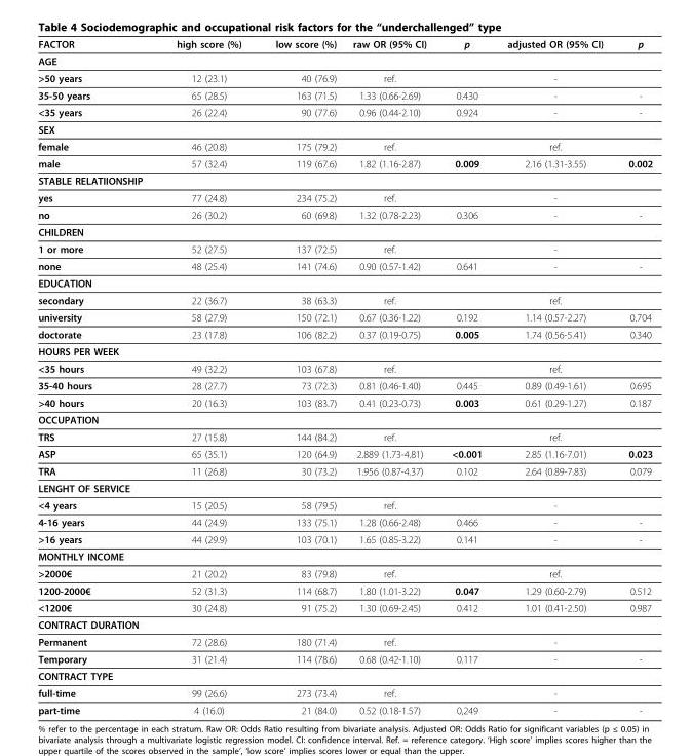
<table><thead><tr><td>FACTOR</td><td>high score (%)</td><td>low score (%)</td><td>raw OR (95% CI)</td><td>p</td><td>adjusted OR (95% CI)</td><td>p</td></tr></thead><tbody><tr><td colspan="7">AGE</td></tr><tr><td>&gt;50 years</td><td>12 (23.1)</td><td>40 (76.9)</td><td>ref.</td><td></td><td>-</td><td></td></tr><tr><td>35-50 years</td><td>65 (28.5)</td><td>163 (71.5)</td><td>1.33 (0.66-2.69)</td><td>0.430</td><td>-</td><td>-</td></tr><tr><td>&lt;35 years</td><td>26 (22.4)</td><td>90 (77.6)</td><td>0.96 (0.44-2.10)</td><td>0.924</td><td>-</td><td>-</td></tr><tr><td colspan="7">SEX</td></tr><tr><td>female</td><td>46 (20.8)</td><td>175 (79.2)</td><td>ref.</td><td></td><td>ref.</td><td></td></tr><tr><td>male</td><td>57 (32.4)</td><td>119 (67.6)</td><td>1.82 (1.16-2.87)</td><td>0.009</td><td>2.16 (1.31-3.55)</td><td>0.002</td></tr><tr><td colspan="7">STABLE RELATIIONSHIP</td></tr><tr><td>yes</td><td>77 (24.8)</td><td>234 (75.2)</td><td>ref.</td><td></td><td>-</td><td></td></tr><tr><td>no</td><td>26 (30.2)</td><td>60 (69.8)</td><td>1.32 (0.78-2.23)</td><td>0.306</td><td>-</td><td>-</td></tr><tr><td colspan="7">CHILDREN</td></tr><tr><td>1 or more</td><td>52 (27.5)</td><td>137 (72.5)</td><td>ref.</td><td></td><td>-</td><td></td></tr><tr><td>none</td><td>48 (25.4)</td><td>141 (74.6)</td><td>0.90 (0.57-1.42)</td><td>0.641</td><td>-</td><td>-</td></tr><tr><td colspan="7">EDUCATION</td></tr><tr><td>secondary</td><td>22 (36.7)</td><td>38 (63.3)</td><td>ref.</td><td></td><td>ref.</td><td></td></tr><tr><td>university</td><td>58 (27.9)</td><td>150 (72.1)</td><td>0.67 (0.36-1.22)</td><td>0.192</td><td>1.14 (0.57-2.27)</td><td>0.704</td></tr><tr><td>doctorate</td><td>23 (17.8)</td><td>106 (82.2)</td><td>0.37 (0.19-0.75)</td><td>0.005</td><td>1.74 (0.56-5.41)</td><td>0.340</td></tr><tr><td colspan="7">HOURS PER WEEK</td></tr><tr><td>&lt;35 hours</td><td>49 (32.2)</td><td>103 (67.8)</td><td>ref.</td><td></td><td>ref.</td><td></td></tr><tr><td>35-40 hours</td><td>28 (27.7)</td><td>73 (72.3)</td><td>0.81 (0.46-1.40)</td><td>0.445</td><td>0.89 (0.49-1.61)</td><td>0.695</td></tr><tr><td>&gt;40 hours</td><td>20 (16.3)</td><td>103 (83.7)</td><td>0.41 (0.23-0.73)</td><td>0.003</td><td>0.61 (0.29-1.27)</td><td>0.187</td></tr><tr><td colspan="7">OCCUPATION</td></tr><tr><td>TRS</td><td>27 (15.8)</td><td>144 (84.2)</td><td>ref.</td><td></td><td>ref.</td><td></td></tr><tr><td>ASP</td><td>65 (35.1)</td><td>120 (64.9)</td><td>2.889 (1.73-4.81)</td><td>&lt;0.001</td><td>2.85 (1.16-7.01)</td><td>0.023</td></tr><tr><td>TRA</td><td>11 (26.8)</td><td>30 (73.2)</td><td>1.956 (0.87-4.37)</td><td>0.102</td><td>2.64 (0.89-7.83)</td><td>0.079</td></tr><tr><td colspan="7">LENGHT OF SERVICE</td></tr><tr><td>&lt;4 years</td><td>15 (20.5)</td><td>58 (79.5)</td><td>ref.</td><td></td><td>-</td><td></td></tr><tr><td>4-16 years</td><td>44 (24.9)</td><td>133 (75.1)</td><td>1.28 (0.66-2.48)</td><td>0.466</td><td>-</td><td>-</td></tr><tr><td>&gt;16 years</td><td>44 (29.9)</td><td>103 (70.1)</td><td>1.65 (0.85-3.22)</td><td>0.141</td><td>-</td><td>-</td></tr><tr><td colspan="7">MONTHLY INCOME</td></tr><tr><td>&gt;2000€</td><td>21 (20.2)</td><td>83 (79.8)</td><td>ref.</td><td></td><td>ref.</td><td></td></tr><tr><td>1200-2000€</td><td>52 (31.3)</td><td>114 (68.7)</td><td>1.80 (1.01-3.22)</td><td>0.047</td><td>1.29 (0.60-2.79)</td><td>0.512</td></tr><tr><td>&lt;1200€</td><td>30 (24.8)</td><td>91 (75.2)</td><td>1.30 (0.69-2.45)</td><td>0.412</td><td>1.01 (0.41-2.50)</td><td>0.987</td></tr><tr><td colspan="7">CONTRACT DURATION</td></tr><tr><td>Permanent</td><td>72 (28.6)</td><td>180 (71.4)</td><td>ref.</td><td></td><td>-</td><td></td></tr><tr><td>Temporary</td><td>31 (21.4)</td><td>114 (78.6)</td><td>0.68 (0.42-1.10)</td><td>0.117</td><td>-</td><td>-</td></tr><tr><td colspan="7">CONTRACT TYPE</td></tr><tr><td>full-time</td><td>99 (26.6)</td><td>273 (73.4)</td><td>ref.</td><td></td><td>-</td><td></td></tr><tr><td>part-time</td><td>4 (16.0)</td><td>21 (84.0)</td><td>0.52 (0.18-1.57)</td><td>0,249</td><td>-</td><td>-</td></tr></tbody></table>